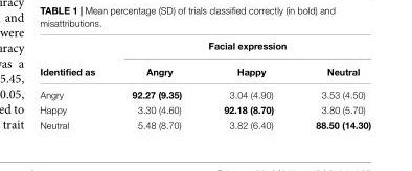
<table><thead><tr><td rowspan="2">Identified as</td><td colspan="3">Facial expression</td></tr><tr><td>Angry</td><td>Happy</td><td>Neutral</td></tr></thead><tbody><tr><td>Angry</td><td>92.27 (9.35)</td><td>3.04 (4.90)</td><td>3.53 (4.50)</td></tr><tr><td>Happy</td><td>3.30 (4.60)</td><td>92.18 (8.70)</td><td>3.80 (5.70)</td></tr><tr><td>Neutral</td><td>5.48 (8.70)</td><td>3.82 (6.40)</td><td>88.50 (14.30)</td></tr></tbody></table>